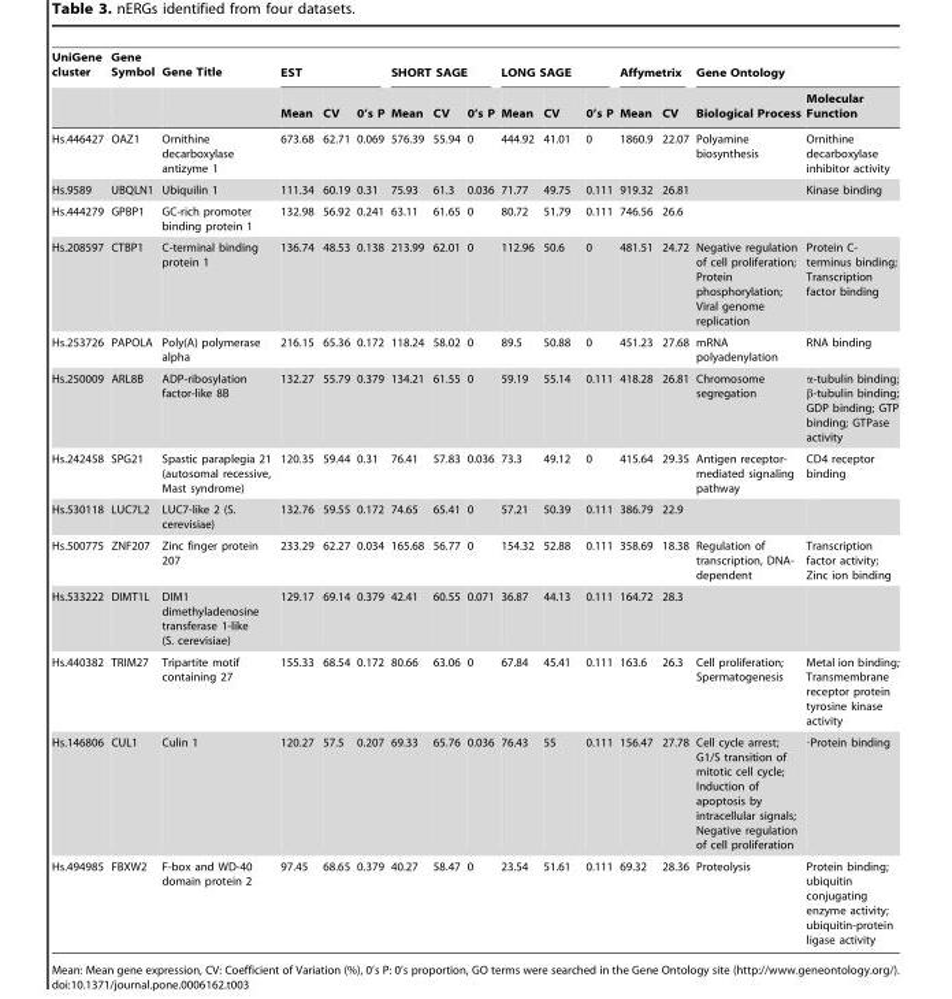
<table><thead><tr><td rowspan="2">UniGene cluster</td><td rowspan="2">Gene Symbol</td><td rowspan="2">Gene Title</td><td colspan="3">EST</td><td colspan="3">SHORT SAGE</td><td colspan="3">LONG SAGE</td><td colspan="2">Affymetrix</td><td colspan="2">Gene Ontology</td></tr><tr><td>Mean</td><td>CV</td><td>0’s P</td><td>Mean</td><td>CV</td><td>0’s P</td><td>Mean</td><td>CV</td><td>0’s P</td><td>Mean</td><td>CV</td><td>Biological Process</td><td>Molecular Function</td></tr></thead><tbody><tr><td>Hs.446427</td><td>OAZ1</td><td>Ornithine decarboxylase antizyme 1</td><td>673.68</td><td>62.71</td><td>0.069</td><td>576.39</td><td>55.94</td><td>0</td><td>444.92</td><td>41.01</td><td>0</td><td>1860.9</td><td>22.07</td><td>Polyamine biosynthesis</td><td>Ornithine decarboxylase inhibitor activity</td></tr><tr><td>Hs.9589</td><td>UBQLN1</td><td>Ubiquilin 1</td><td>111.34</td><td>60.19</td><td>0.31</td><td>75.93</td><td>61.3</td><td>0.036</td><td>71.77</td><td>49.75</td><td>0.111</td><td>919.32</td><td>26.81</td><td></td><td>Kinase binding</td></tr><tr><td>Hs.444279</td><td>GPBP1</td><td>GC-rich promoter binding protein 1</td><td>132.98</td><td>56.92</td><td>0.241</td><td>63.11</td><td>61.65</td><td>0</td><td>80.72</td><td>51.79</td><td>0.111</td><td>746.56</td><td>26.6</td><td></td><td></td></tr><tr><td>Hs.208597</td><td>CTBP1</td><td>C-terminal binding protein 1</td><td>136.74</td><td>48.53</td><td>0.138</td><td>213.99</td><td>62.01</td><td>0</td><td>112.96</td><td>50.6</td><td>0</td><td>481.51</td><td>24.72</td><td>Negative regulation of cell proliferation; Protein phosphorylation; Viral genome replication</td><td>Protein C- terminus binding; Transcription factor binding</td></tr><tr><td>Hs.253726</td><td>PAPOLA</td><td>Poly(A) polymerase alpha</td><td>216.15</td><td>65.36</td><td>0.172</td><td>118.24</td><td>58.02</td><td>0</td><td>89.5</td><td>50.88</td><td>0</td><td>451.23</td><td>27.68</td><td>mRNA polyadenylation</td><td>RNA binding</td></tr><tr><td>Hs.250009</td><td>ARL8B</td><td>ADP-ribosylation factor-like 8B</td><td>132.27</td><td>55.79</td><td>0.379</td><td>134.21</td><td>61.55</td><td>0</td><td>59.19</td><td>55.14</td><td>0.111</td><td>418.28</td><td>26.81</td><td>Chromosome segregation</td><td>α-tubulin binding; β-tubulin binding; GDP binding; GTP binding; GTPase activity</td></tr><tr><td>Hs.242458</td><td>SPG21</td><td>Spastic paraplegia 21 (autosomal recessive, Mast syndrome)</td><td>120.35</td><td>59.44</td><td>0.31</td><td>76.41</td><td>57.83</td><td>0.036</td><td>73.3</td><td>49.12</td><td>0</td><td>415.64</td><td>29.35</td><td>Antigen receptor- mediated signaling pathway</td><td>CD4 receptor binding</td></tr><tr><td>Hs.530118</td><td>LUC7L2</td><td>LUC7-like 2 (S. cerevisiae)</td><td>132.76</td><td>59.55</td><td>0.172</td><td>74.65</td><td>65.41</td><td>0</td><td>57.21</td><td>50.39</td><td>0.111</td><td>386.79</td><td>22.9</td><td></td><td></td></tr><tr><td>Hs.500775</td><td>ZNF207</td><td>Zinc finger protein 207</td><td>233.29</td><td>62.27</td><td>0.034</td><td>165.68</td><td>56.77</td><td>0</td><td>154.32</td><td>52.88</td><td>0.111</td><td>358.69</td><td>18.38</td><td>Regulation of transcription, DNA- dependent</td><td>Transcription factor activity; Zinc ion binding</td></tr><tr><td>Hs.533222</td><td>DIMT1L</td><td>DIM1 dimethyladenosine transferase 1-like (S. cerevisiae)</td><td>129.17</td><td>69.14</td><td>0.379</td><td>42.41</td><td>60.55</td><td>0.071</td><td>36.87</td><td>44.13</td><td>0.111</td><td>164.72</td><td>28.3</td><td></td><td></td></tr><tr><td>Hs.440382</td><td>TRIM27</td><td>Tripartite motif containing 27</td><td>155.33</td><td>68.54</td><td>0.172</td><td>80.66</td><td>63.06</td><td>0</td><td>67.84</td><td>45.41</td><td>0.111</td><td>163.6</td><td>26.3</td><td>Cell proliferation; Spermatogenesis</td><td>Metal ion binding; Transmembrane receptor protein tyrosine kinase activity</td></tr><tr><td>Hs.146806</td><td>CUL1</td><td>Culin 1</td><td>120.27</td><td>57.5</td><td>0.207</td><td>69.33</td><td>65.76</td><td>0.036</td><td>76.43</td><td>55</td><td>0.111</td><td>156.47</td><td>27.78</td><td>Cell cycle arrest; G1/S transition of mitotic cell cycle; Induction of apoptosis by intracellular signals; Negative regulation of cell proliferation</td><td>·Protein binding</td></tr><tr><td>Hs.494985</td><td>FBXW2</td><td>F-box and WD-40 domain protein 2</td><td>97.45</td><td>68.65</td><td>0.379</td><td>40.27</td><td>58.47</td><td>0</td><td>23.54</td><td>51.61</td><td>0.111</td><td>69.32</td><td>28.36</td><td>Proteolysis</td><td>Protein binding; ubiquitin conjugating enzyme activity; ubiquitin-protein ligase activity</td></tr></tbody></table>